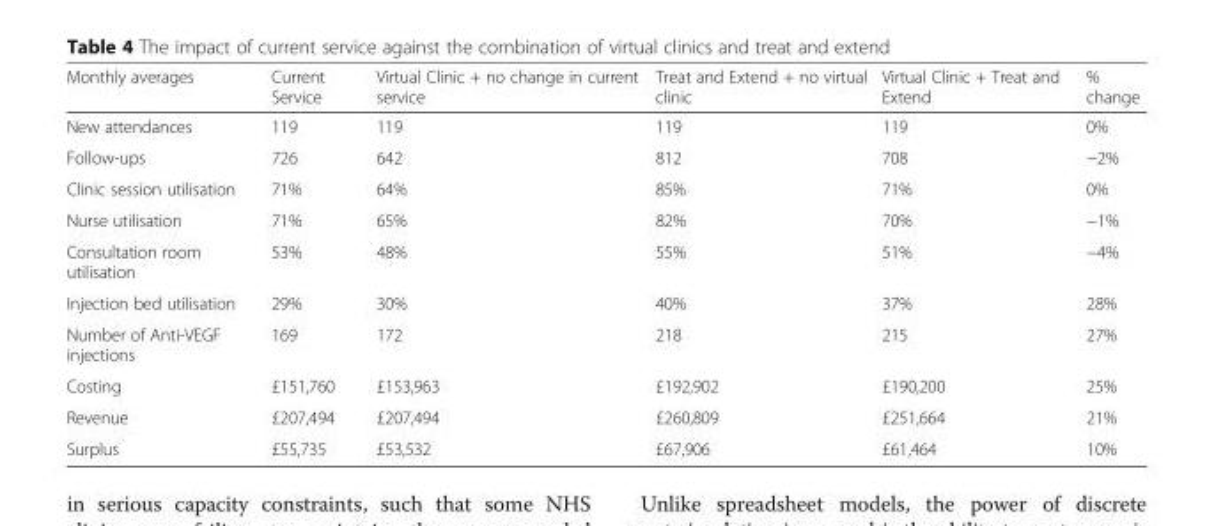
<table><thead><tr><td>Monthly averages</td><td>Current Service</td><td>Virtual Clinic + no change in current service</td><td>Treat and Extend + no virtual clinic</td><td>Virtual Clinic + Treat and Extend</td><td>% change</td></tr></thead><tbody><tr><td>New attendances</td><td>119</td><td>119</td><td>119</td><td>119</td><td>0%</td></tr><tr><td>Follow-ups</td><td>726</td><td>642</td><td>812</td><td>708</td><td>−2%</td></tr><tr><td>Clinic session utilisation</td><td>71%</td><td>64%</td><td>85%</td><td>71%</td><td>0%</td></tr><tr><td>Nurse utilisation</td><td>71%</td><td>65%</td><td>82%</td><td>70%</td><td>−1%</td></tr><tr><td>Consultation room utilisation</td><td>53%</td><td>48%</td><td>55%</td><td>51%</td><td>−4%</td></tr><tr><td>Injection bed utilisation</td><td>29%</td><td>30%</td><td>40%</td><td>37%</td><td>28%</td></tr><tr><td>Number of Anti-VEGF injections</td><td>169</td><td>172</td><td>218</td><td>215</td><td>27%</td></tr><tr><td>Costing</td><td>£151,760</td><td>£153,963</td><td>£192,902</td><td>£190,200</td><td>25%</td></tr><tr><td>Revenue</td><td>£207,494</td><td>£207,494</td><td>£260,809</td><td>£251,664</td><td>21%</td></tr><tr><td>Surplus</td><td>£55,735</td><td>£53,532</td><td>£67,906</td><td>£61,464</td><td>10%</td></tr></tbody></table>